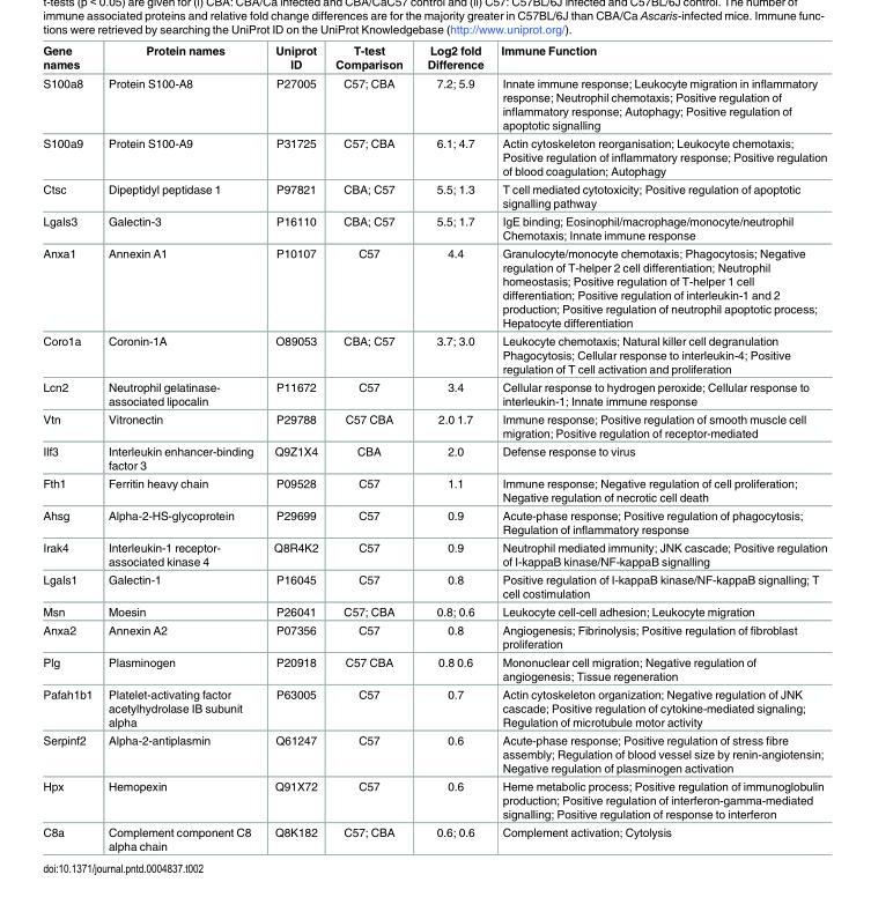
<table><thead><tr><td>Gene names</td><td>Protein names</td><td>Uniprot ID</td><td>T-test Comparison</td><td>Log2 fold Difference</td><td>Immune Function</td></tr></thead><tbody><tr><td>S100a8</td><td>Protein S100-A8</td><td>P27005</td><td>C57; CBA</td><td>7.2; 5.9</td><td>Innate immune response; Leukocyte migration in inflammatory response; Neutrophil chemotaxis; Positive regulation of inflammatory response; Autophagy; Positive regulation of apoptotic signalling</td></tr><tr><td>S100a9</td><td>Protein S100-A9</td><td>P31725</td><td>C57; CBA</td><td>6.1; 4.7</td><td>Actin cytoskeleton reorganisation; Leukocyte chemotaxis; Positive regulation of inflammatory response; Positive regulation of blood coagulation; Autophagy</td></tr><tr><td>Ctsc</td><td>Dipeptidyl peptidase 1</td><td>P97821</td><td>CBA; C57</td><td>5.5; 1.3</td><td>T cell mediated cytotoxicity; Positive regulation of apoptotic signalling pathway</td></tr><tr><td>Lgals3</td><td>Galectin-3</td><td>P16110</td><td>CBA; C57</td><td>5.5; 1.7</td><td>IgE binding; Eosinophil/macrophage/monocyte/neutrophil Chemotaxis; Innate immune response</td></tr><tr><td>Anxa1</td><td>Annexin A1</td><td>P10107</td><td>C57</td><td>4.4</td><td>Granulocyte/monocyte chemotaxis; Phagocytosis; Negative regulation of T-helper 2 cell differentiation; Neutrophil homeostasis; Positive regulation of T-helper 1 cell differentiation; Positive regulation of interleukin-1 and 2 production; Positive regulation of neutrophil apoptotic process; Hepatocyte differentiation</td></tr><tr><td>Coro1a</td><td>Coronin-1A</td><td>O89053</td><td>CBA; C57</td><td>3.7; 3.0</td><td>Leukocyte chemotaxis; Natural killer cell degranulation Phagocytosis; Cellular response to interleukin-4; Positive regulation of T cell activation and proliferation</td></tr><tr><td>Lcn2</td><td>Neutrophil gelatinase- associated lipocalin</td><td>P11672</td><td>C57</td><td>3.4</td><td>Cellular response to hydrogen peroxide; Cellular response to interleukin-1; Innate immune response</td></tr><tr><td>Vtn</td><td>Vitronectin</td><td>P29788</td><td>C57 CBA</td><td>2.0 1.7</td><td>Immune response; Positive regulation of smooth muscle cell migration; Positive regulation of receptor-mediated</td></tr><tr><td>Ilf3</td><td>Interleukin enhancer-binding factor 3</td><td>Q9Z1X4</td><td>CBA</td><td>2.0</td><td>Defense response to virus</td></tr><tr><td>Fth1</td><td>Ferritin heavy chain</td><td>P09528</td><td>C57</td><td>1.1</td><td>Immune response; Negative regulation of cell proliferation; Negative regulation of necrotic cell death</td></tr><tr><td>Ahsg</td><td>Alpha-2-HS-glycoprotein</td><td>P29699</td><td>C57</td><td>0.9</td><td>Acute-phase response; Positive regulation of phagocytosis; Regulation of inflammatory response</td></tr><tr><td>Irak4</td><td>Interleukin-1 receptor- associated kinase 4</td><td>Q8R4K2</td><td>C57</td><td>0.9</td><td>Neutrophil mediated immunity; JNK cascade; Positive regulation of I-kappaB kinase/NF-kappaB signalling</td></tr><tr><td>Lgals1</td><td>Galectin-1</td><td>P16045</td><td>C57</td><td>0.8</td><td>Positive regulation of I-kappaB kinase/NF-kappaB signalling; T cell costimulation</td></tr><tr><td>Msn</td><td>Moesin</td><td>P26041</td><td>C57; CBA</td><td>0.8; 0.6</td><td>Leukocyte cell-cell adhesion; Leukocyte migration</td></tr><tr><td>Anxa2</td><td>Annexin A2</td><td>P07356</td><td>C57</td><td>0.8</td><td>Angiogenesis; Fibrinolysis; Positive regulation of fibroblast proliferation</td></tr><tr><td>Plg</td><td>Plasminogen</td><td>P20918</td><td>C57 CBA</td><td>0.8 0.6</td><td>Mononuclear cell migration; Negative regulation of angiogenesis; Tissue regeneration</td></tr><tr><td>Pafah1b1</td><td>Platelet-activating factor acetylhydrolase IB subunit alpha</td><td>P63005</td><td>C57</td><td>0.7</td><td>Actin cytoskeleton organization; Negative regulation of JNK cascade; Positive regulation of cytokine-mediated signaling; Regulation of microtubule motor activity</td></tr><tr><td>Serpinf2</td><td>Alpha-2-antiplasmin</td><td>Q61247</td><td>C57</td><td>0.6</td><td>Acute-phase response; Positive regulation of stress fibre assembly; Regulation of blood vessel size by renin-angiotensin; Negative regulation of plasminogen activation</td></tr><tr><td>Hpx</td><td>Hemopexin</td><td>Q91X72</td><td>C57</td><td>0.6</td><td>Heme metabolic process; Positive regulation of immunoglobulin production; Positive regulation of interferon-gamma-mediated signalling; Positive regulation of response to interferon</td></tr><tr><td>C8a</td><td>Complement component C8 alpha chain</td><td>Q8K182</td><td>C57; CBA</td><td>0.6; 0.6</td><td>Complement activation; Cytolysis</td></tr></tbody></table>